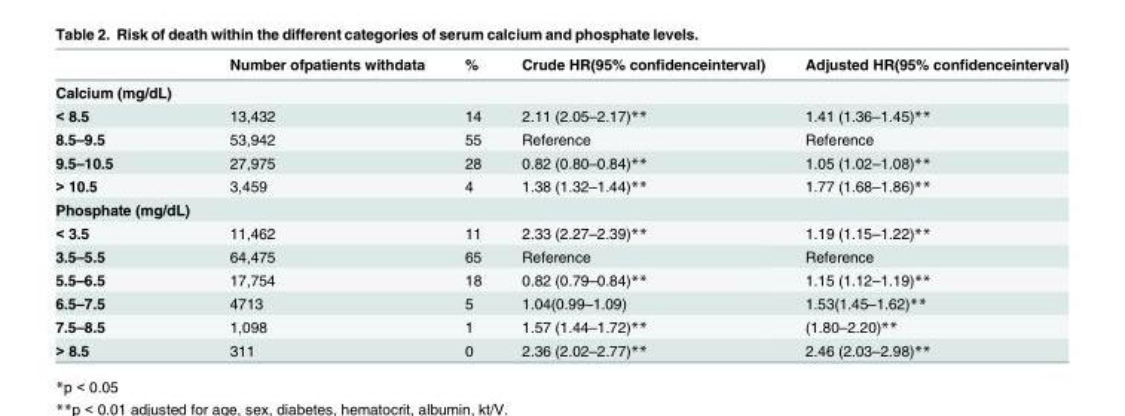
<table><thead><tr><td></td><td>Number ofpatients withdata</td><td>%</td><td>Crude HR(95% confidenceinterval)</td><td>Adjusted HR(95% confidenceinterval)</td></tr></thead><tbody><tr><td colspan="5">Calcium (mg/dL)</td></tr><tr><td>&lt; 8.5</td><td>13,432</td><td>14</td><td>2.11 (2.05–2.17)**</td><td>1.41 (1.36–1.45)**</td></tr><tr><td>8.5–9.5</td><td>53,942</td><td>55</td><td>Reference</td><td>Reference</td></tr><tr><td>9.5–10.5</td><td>27,975</td><td>28</td><td>0.82 (0.80–0.84)**</td><td>1.05 (1.02–1.08)**</td></tr><tr><td>&gt; 10.5</td><td>3,459</td><td>4</td><td>1.38 (1.32–1.44)**</td><td>1.77 (1.68–1.86)**</td></tr><tr><td colspan="5">Phosphate (mg/dL)</td></tr><tr><td>&lt; 3.5</td><td>11,462</td><td>11</td><td>2.33 (2.27–2.39)**</td><td>1.19 (1.15–1.22)**</td></tr><tr><td>3.5–5.5</td><td>64,475</td><td>65</td><td>Reference</td><td>Reference</td></tr><tr><td>5.5–6.5</td><td>17,754</td><td>18</td><td>0.82 (0.79–0.84)**</td><td>1.15 (1.12–1.19)**</td></tr><tr><td>6.5–7.5</td><td>4713</td><td>5</td><td>1.04(0.99–1.09)</td><td>1.53(1.45–1.62)**</td></tr><tr><td>7.5–8.5</td><td>1,098</td><td>1</td><td>1.57 (1.44–1.72)**</td><td>(1.80–2.20)**</td></tr><tr><td>&gt; 8.5</td><td>311</td><td>0</td><td>2.36 (2.02–2.77)**</td><td>2.46 (2.03–2.98)**</td></tr></tbody></table>